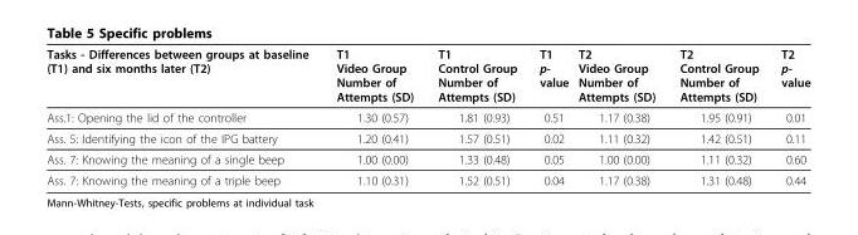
<table><thead><tr><td>Tasks - Differences between groups at baseline (T1) and six months later (T2)</td><td>T1 Video Group Number of Attempts (SD)</td><td>T1 Control Group Number of Attempts (SD)</td><td>T1 p- value</td><td>T2 Video Group Number of Attempts (SD)</td><td>T2 Control Group Number of Attempts (SD)</td><td>T2 p- value</td></tr></thead><tbody><tr><td>Ass.1: Opening the lid of the controller</td><td>1.30 (0.57)</td><td>1.81 (0.93)</td><td>0.51</td><td>1.17 (0.38)</td><td>1.95 (0.91)</td><td>0.01</td></tr><tr><td>Ass. 5: Identifying the icon of the IPG battery</td><td>1.20 (0.41)</td><td>1.57 (0.51)</td><td>0.02</td><td>1.11 (0.32)</td><td>1.42 (0.51)</td><td>0.11</td></tr><tr><td>Ass. 7: Knowing the meaning of a single beep</td><td>1.00 (0.00)</td><td>1.33 (0.48)</td><td>0.05</td><td>1.00 (0.00)</td><td>1.11 (0.32)</td><td>0.60</td></tr><tr><td>Ass. 7: Knowing the meaning of a triple beep</td><td>1.10 (0.31)</td><td>1.52 (0.51)</td><td>0.04</td><td>1.17 (0.38)</td><td>1.31 (0.48)</td><td>0.44</td></tr></tbody></table>